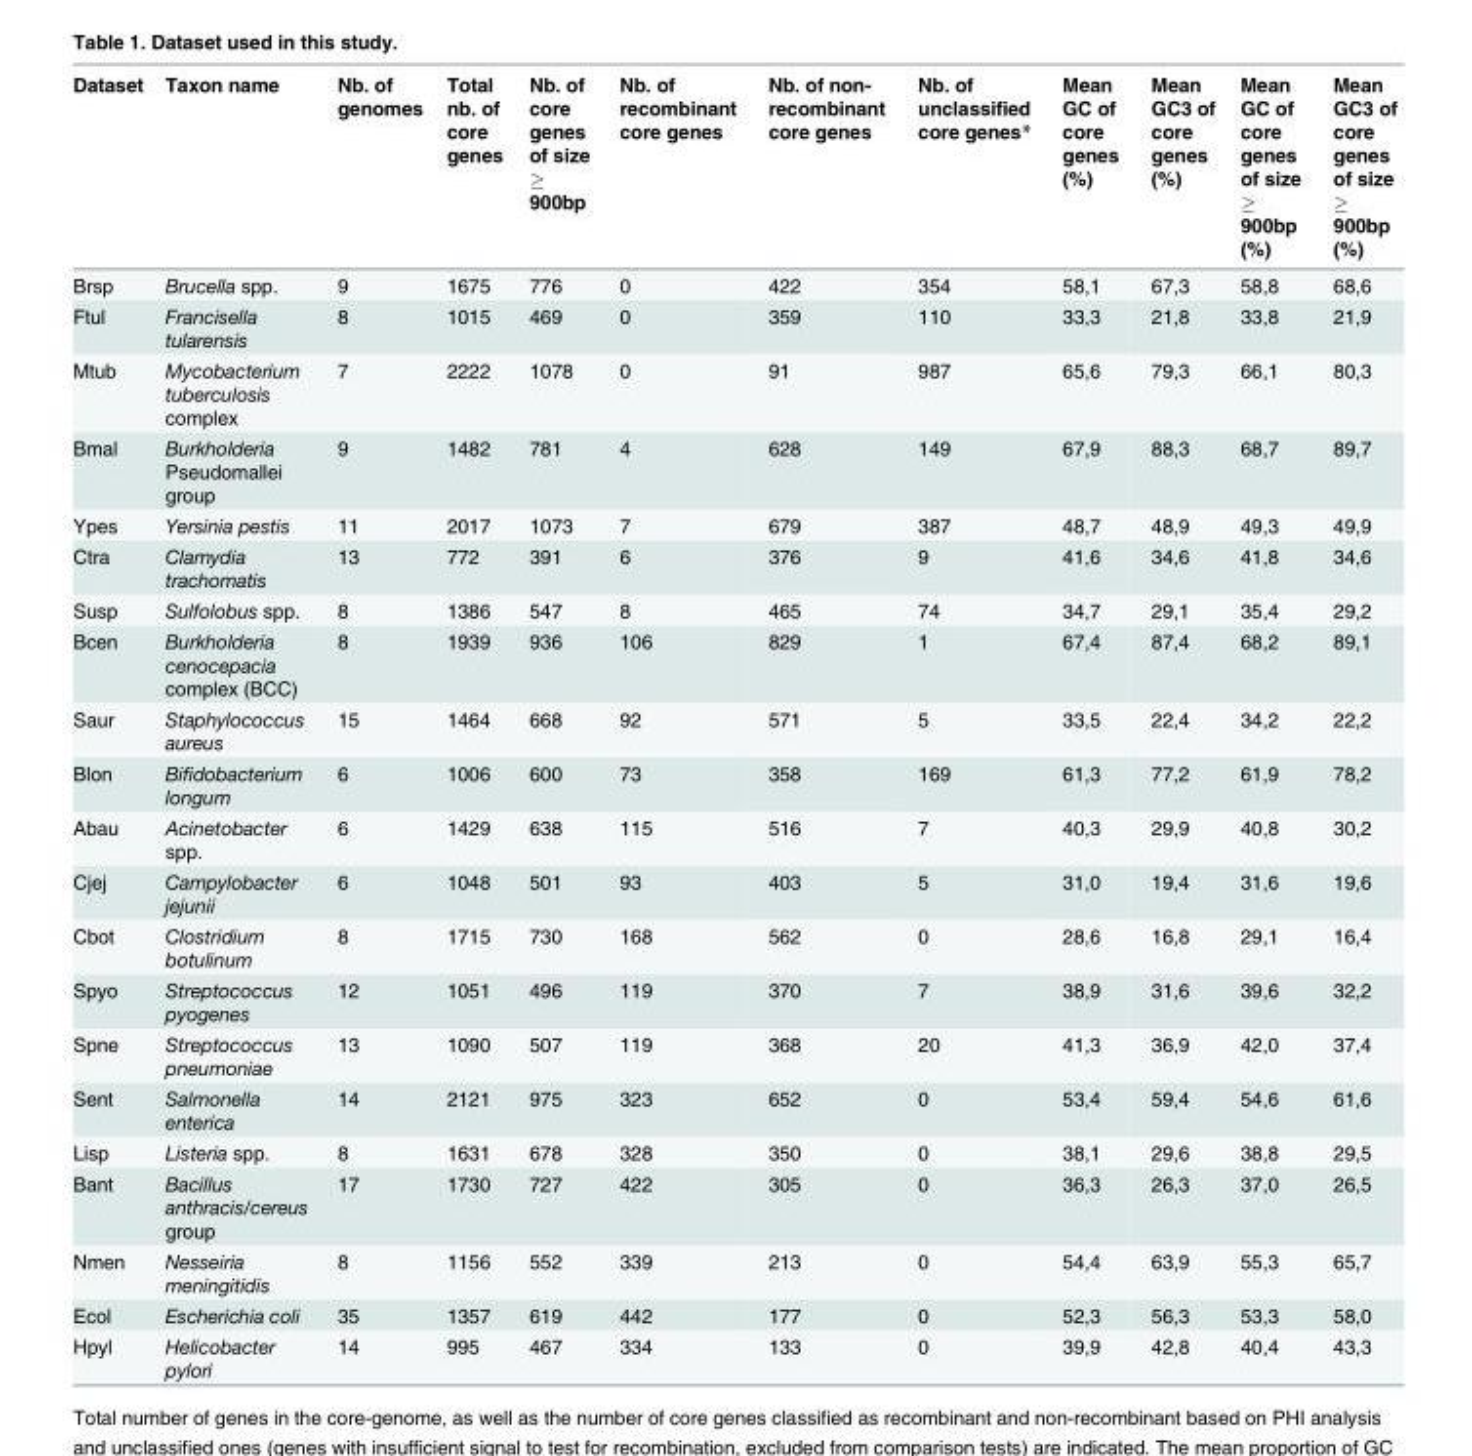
<table><thead><tr><td>Dataset</td><td>Taxon name</td><td>Nb. of genomes</td><td>Total nb. of core genes</td><td>Nb. of core genes of size ≥ 900bp</td><td>Nb. of recombinant core genes</td><td>Nb. of non- recombinant core genes</td><td>Nb. of unclassified core genes*</td><td>Mean GC of core genes (%)</td><td>Mean GC3 of core genes (%)</td><td>Mean GC of core genes of size ≥ 900bp (%)</td><td>Mean GC3 of core genes of size ≥ 900bp (%)</td></tr></thead><tbody><tr><td>Brsp</td><td>Brucella spp.</td><td>9</td><td>1675</td><td>776</td><td>0</td><td>422</td><td>354</td><td>58,1</td><td>67,3</td><td>58,8</td><td>68,6</td></tr><tr><td>Ftul</td><td>Francisella tularensis</td><td>8</td><td>1015</td><td>469</td><td>0</td><td>359</td><td>110</td><td>33,3</td><td>21,8</td><td>33,8</td><td>21,9</td></tr><tr><td>Mtub</td><td>Mycobacterium tuberculosis complex</td><td>7</td><td>2222</td><td>1078</td><td>0</td><td>91</td><td>987</td><td>65,6</td><td>79,3</td><td>66,1</td><td>80,3</td></tr><tr><td>Bmal</td><td>Burkholderia Pseudomallei group</td><td>9</td><td>1482</td><td>781</td><td>4</td><td>628</td><td>149</td><td>67,9</td><td>88,3</td><td>68,7</td><td>89,7</td></tr><tr><td>Ypes</td><td>Yersinia pestis</td><td>11</td><td>2017</td><td>1073</td><td>7</td><td>679</td><td>387</td><td>48,7</td><td>48,9</td><td>49,3</td><td>49,9</td></tr><tr><td>Ctra</td><td>Clamydia trachomatis</td><td>13</td><td>772</td><td>391</td><td>6</td><td>376</td><td>9</td><td>41,6</td><td>34,6</td><td>41,8</td><td>34,6</td></tr><tr><td>Susp</td><td>Sulfolobus spp.</td><td>8</td><td>1386</td><td>547</td><td>8</td><td>465</td><td>74</td><td>34,7</td><td>29,1</td><td>35,4</td><td>29,2</td></tr><tr><td>Bcen</td><td>Burkholderia cenocepacia complex (BCC)</td><td>8</td><td>1939</td><td>936</td><td>106</td><td>829</td><td>1</td><td>67,4</td><td>87,4</td><td>68,2</td><td>89,1</td></tr><tr><td>Saur</td><td>Staphylococcus aureus</td><td>15</td><td>1464</td><td>668</td><td>92</td><td>571</td><td>5</td><td>33,5</td><td>22,4</td><td>34,2</td><td>22,2</td></tr><tr><td>Blon</td><td>Bifidobacterium longum</td><td>6</td><td>1006</td><td>600</td><td>73</td><td>358</td><td>169</td><td>61,3</td><td>77,2</td><td>61,9</td><td>78,2</td></tr><tr><td>Abau</td><td>Acinetobacter spp.</td><td>6</td><td>1429</td><td>638</td><td>115</td><td>516</td><td>7</td><td>40,3</td><td>29,9</td><td>40,8</td><td>30,2</td></tr><tr><td>Cjej</td><td>Campylobacter jejunii</td><td>6</td><td>1048</td><td>501</td><td>93</td><td>403</td><td>5</td><td>31,0</td><td>19,4</td><td>31,6</td><td>19,6</td></tr><tr><td>Cbot</td><td>Clostridium botulinum</td><td>8</td><td>1715</td><td>730</td><td>168</td><td>562</td><td>0</td><td>28,6</td><td>16,8</td><td>29,1</td><td>16,4</td></tr><tr><td>Spyo</td><td>Streptococcus pyogenes</td><td>12</td><td>1051</td><td>496</td><td>119</td><td>370</td><td>7</td><td>38,9</td><td>31,6</td><td>39,6</td><td>32,2</td></tr><tr><td>Spne</td><td>Streptococcus pneumoniae</td><td>13</td><td>1090</td><td>507</td><td>119</td><td>368</td><td>20</td><td>41,3</td><td>36,9</td><td>42,0</td><td>37,4</td></tr><tr><td>Sent</td><td>Salmonella enterica</td><td>14</td><td>2121</td><td>975</td><td>323</td><td>652</td><td>0</td><td>53,4</td><td>59,4</td><td>54,6</td><td>61,6</td></tr><tr><td>Lisp</td><td>Listeria spp.</td><td>8</td><td>1631</td><td>678</td><td>328</td><td>350</td><td>0</td><td>38,1</td><td>29,6</td><td>38,8</td><td>29,5</td></tr><tr><td>Bant</td><td>Bacillus anthracis/cereus group</td><td>17</td><td>1730</td><td>727</td><td>422</td><td>305</td><td>0</td><td>36,3</td><td>26,3</td><td>37,0</td><td>26,5</td></tr><tr><td>Nmen</td><td>Nesseiria meningitidis</td><td>8</td><td>1156</td><td>552</td><td>339</td><td>213</td><td>0</td><td>54,4</td><td>63,9</td><td>55,3</td><td>65,7</td></tr><tr><td>Ecol</td><td>Escherichia coli</td><td>35</td><td>1357</td><td>619</td><td>442</td><td>177</td><td>0</td><td>52,3</td><td>56,3</td><td>53,3</td><td>58,0</td></tr><tr><td>Hpyl</td><td>Helicobacter pylori</td><td>14</td><td>995</td><td>467</td><td>334</td><td>133</td><td>0</td><td>39,9</td><td>42,8</td><td>40,4</td><td>43,3</td></tr></tbody></table>